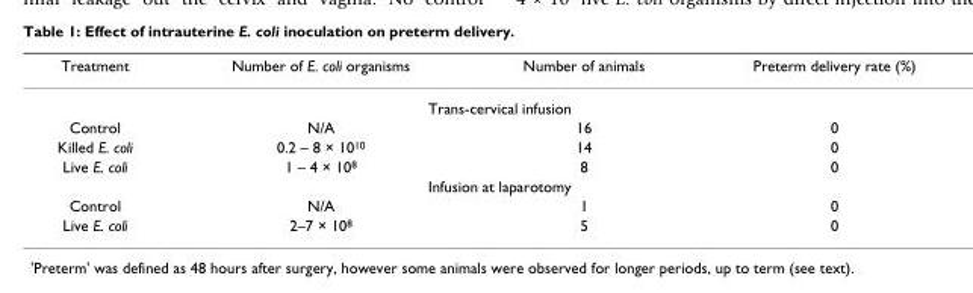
<table><thead><tr><td>Treatment</td><td>Number of E. coli organisms</td><td>Number of animals</td><td>Preterm delivery rate (%)</td></tr></thead><tbody><tr><td colspan="4">Trans-cervical infusion</td></tr><tr><td>Control</td><td>N/A</td><td>16</td><td>0</td></tr><tr><td>Killed E. coli</td><td>0.2 – 8 × 10<sup>10</sup></td><td>14</td><td>0</td></tr><tr><td>Live E. coli</td><td>1 – 4 × 10<sup>8</sup></td><td>8</td><td>0</td></tr><tr><td colspan="4">Infusion at laparotomy</td></tr><tr><td>Control</td><td>N/A</td><td>1</td><td>0</td></tr><tr><td>Live E. coli</td><td>2–7 × 10<sup>8</sup></td><td>5</td><td>0</td></tr></tbody></table>